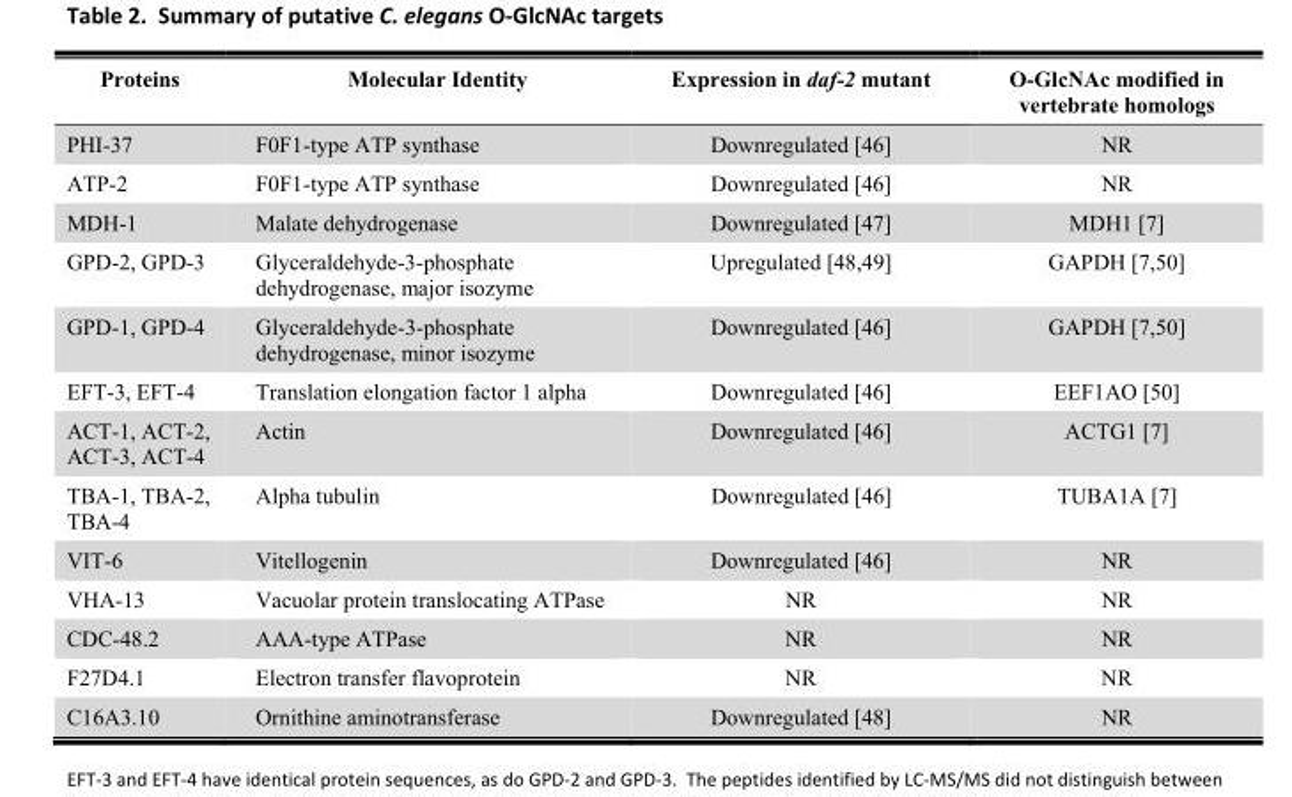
<table><thead><tr><td>Proteins</td><td>Molecular Identity</td><td>Expression in daf-2 mutant</td><td>O-GlcNAc modified in vertebrate homologs</td></tr></thead><tbody><tr><td>PHI-37</td><td>F0F1-type ATP synthase</td><td>Downregulated [46]</td><td>NR</td></tr><tr><td>ATP-2</td><td>F0F1-type ATP synthase</td><td>Downregulated [46]</td><td>NR</td></tr><tr><td>MDH-1</td><td>Malate dehydrogenase</td><td>Downregulated [47]</td><td>MDH1 [7]</td></tr><tr><td>GPD-2, GPD-3</td><td>Glyceraldehyde-3-phosphate dehydrogenase, major isozyme</td><td>Upregulated [48,49]</td><td>GAPDH [7,50]</td></tr><tr><td>GPD-1, GPD-4</td><td>Glyceraldehyde-3-phosphate dehydrogenase, minor isozyme</td><td>Downregulated [46]</td><td>GAPDH [7,50]</td></tr><tr><td>EFT-3, EFT-4</td><td>Translation elongation factor 1 alpha</td><td>Downregulated [46]</td><td>EEF1AO [50]</td></tr><tr><td>ACT-1, ACT-2, ACT-3, ACT-4</td><td>Actin</td><td>Downregulated [46]</td><td>ACTG1 [7]</td></tr><tr><td>TBA-1, TBA-2, TBA-4</td><td>Alpha tubulin</td><td>Downregulated [46]</td><td>TUBA1A [7]</td></tr><tr><td>VIT-6</td><td>Vitellogenin</td><td>Downregulated [46]</td><td>NR</td></tr><tr><td>VHA-13</td><td>Vacuolar protein translocating ATPase</td><td>NR</td><td>NR</td></tr><tr><td>CDC-48.2</td><td>AAA-type ATPase</td><td>NR</td><td>NR</td></tr><tr><td>F27D4.1</td><td>Electron transfer flavoprotein</td><td>NR</td><td>NR</td></tr><tr><td>C16A3.10</td><td>Ornithine aminotransferase</td><td>Downregulated [48]</td><td>NR</td></tr></tbody></table>